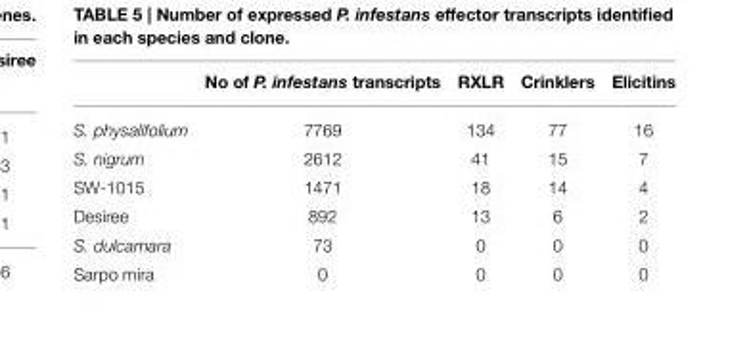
<table><thead><tr><td></td><td>No of P. infestans transcripts</td><td>RXLR</td><td>Crinklers</td><td>Elicitins</td></tr></thead><tbody><tr><td>S. physalifolium</td><td>7769</td><td>134</td><td>77</td><td>16</td></tr><tr><td>S. nigrum</td><td>2612</td><td>41</td><td>15</td><td>7</td></tr><tr><td>SW-1015</td><td>1471</td><td>18</td><td>14</td><td>4</td></tr><tr><td>Desiree</td><td>892</td><td>13</td><td>6</td><td>2</td></tr><tr><td>S. dulcamara</td><td>73</td><td>0</td><td>0</td><td>0</td></tr><tr><td>Sarpo mira</td><td>0</td><td>0</td><td>0</td><td>0</td></tr></tbody></table>